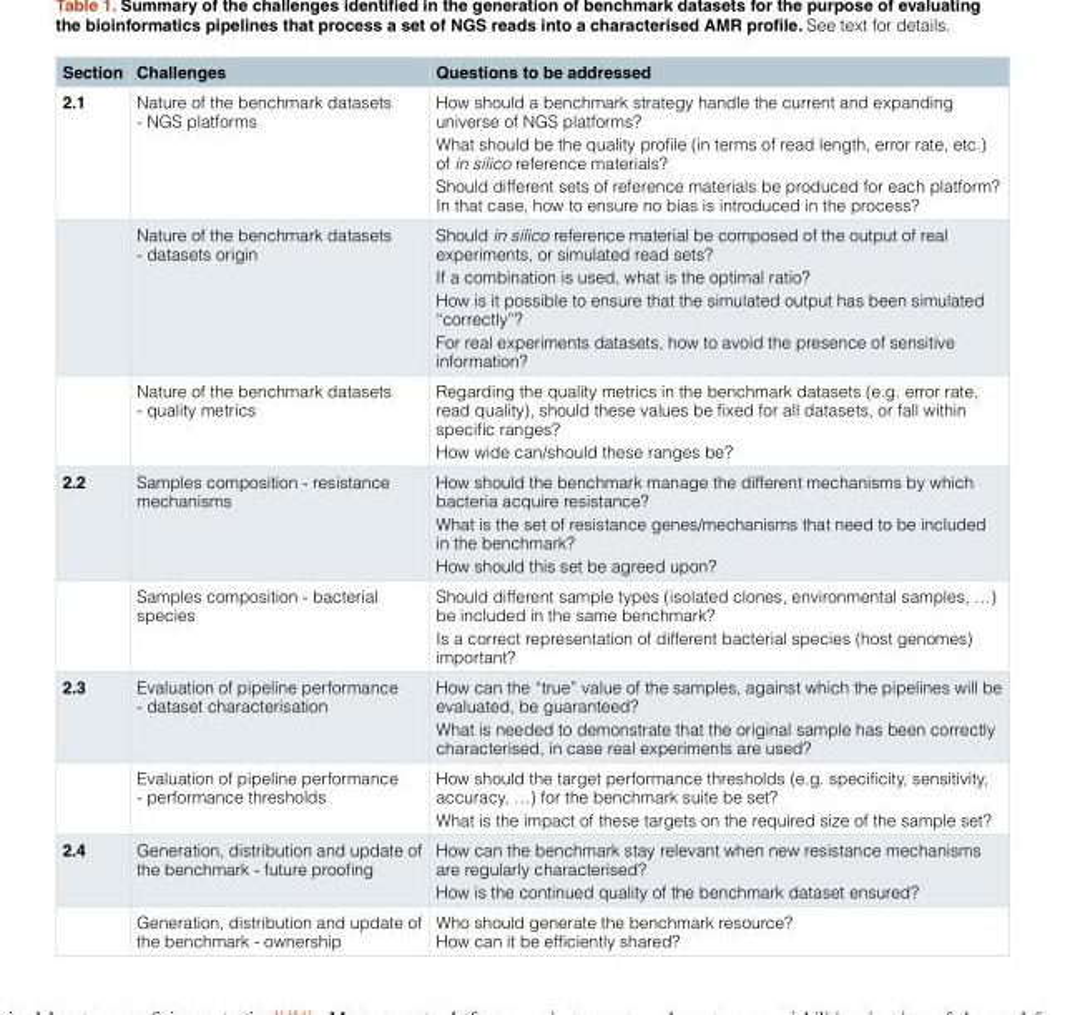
<table><thead><tr><td>Section</td><td>Challenges</td><td>Questions to be addressed</td></tr></thead><tbody><tr><td rowspan="3">2.1</td><td>Nature of the benchmark datasets - NGS platforms</td><td>How should a benchmark strategy handle the current and expanding universe of NGS platforms? What should be the quality profile (in terms of read length, error rate, etc.) of in silico reference materials? Should different sets of reference materials be produced for each platform? In that case, how to ensure no bias is introduced in the process?</td></tr><tr><td>Nature of the benchmark datasets - datasets origin</td><td>Should in silico reference material be composed of the output of real experiments, or simulated read sets? If a combination is used, what is the optimal ratio? How is it possible to ensure that the simulated output has been simulated “correctly”? For real experiments datasets, how to avoid the presence of sensitive information?</td></tr><tr><td>Nature of the benchmark datasets - quality metrics</td><td>Regarding the quality metrics in the benchmark datasets (e.g. error rate, read quality), should these values be fixed for all datasets, or fall within specific ranges? How wide can/should these ranges be?</td></tr><tr><td rowspan="2">2.2</td><td>Samples composition - resistance mechanisms</td><td>How should the benchmark manage the different mechanisms by which bacteria acquire resistance? What is the set of resistance genes/mechanisms that need to be included in the benchmark? How should this set be agreed upon?</td></tr><tr><td>Samples composition - bacterial species</td><td>Should different sample types (isolated clones, environmental samples, …) be included in the same benchmark? Is a correct representation of different bacterial species (host genomes) important?</td></tr><tr><td rowspan="2">2.3</td><td>Evaluation of pipeline performance - dataset characterisation</td><td>How can the “true” value of the samples, against which the pipelines will be evaluated, be guaranteed? What is needed to demonstrate that the original sample has been correctly characterised, in case real experiments are used?</td></tr><tr><td>Evaluation of pipeline performance - performance thresholds</td><td>How should the target performance thresholds (e.g. specificity, sensitivity, accuracy, …) for the benchmark suite be set? What is the impact of these targets on the required size of the sample set?</td></tr><tr><td rowspan="2">2.4</td><td>Generation, distribution and update of the benchmark - future proofing</td><td>How can the benchmark stay relevant when new resistance mechanisms are regularly characterised? How is the continued quality of the benchmark dataset ensured?</td></tr><tr><td>Generation, distribution and update of the benchmark - ownership</td><td>Who should generate the benchmark resource? How can it be efficiently shared?</td></tr></tbody></table>